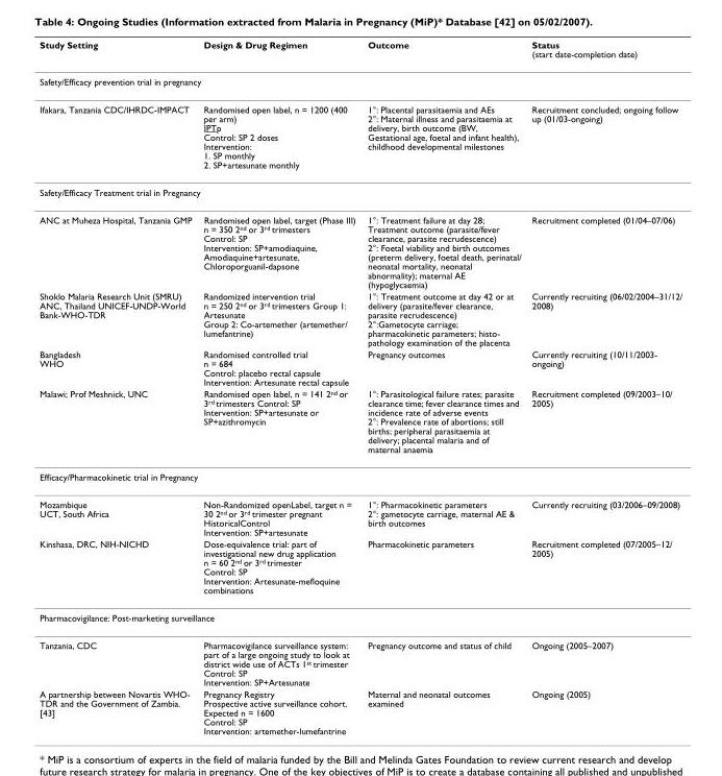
<table><thead><tr><td>Study Setting</td><td>Design &amp; Drug Regimen</td><td>Outcome</td><td>Status (start date-completion date)</td></tr></thead><tbody><tr><td colspan="4">Safety/Efficacy prevention trial in pregnancy</td></tr><tr><td>Ifakara, Tanzania CDC/IHRDC-IMPACT</td><td>Randomised open label, n = 1200 (400 per arm) IPTp Control: SP 2 doses Intervention: 1. SP monthly 2. SP+artesunate monthly</td><td>1°: Placental parasitaemia and AEs 2°: Maternal illness and parasitaemia at delivery, birth outcome (BW, Gestational age, foetal and infant health), childhood developmental milestones</td><td>Recruitment concluded; ongoing follow up (01/03-ongoing)</td></tr><tr><td colspan="4">Safety/Efficacy Treatment trial in Pregnancy</td></tr><tr><td>ANC at Muheza Hospital, Tanzania GMP</td><td>Randomised open label, target (Phase III) n = 350 2<sup>nd</sup> or 3<sup>rd</sup> trimesters Control: SP Intervention: SP+amodiaquine, Amodiaquine+artesunate, Chloroporguanil-dapsone</td><td>1°: Treatment failure at day 28; Treatment outcome (parasite/fever clearance, parasite recrudescence) 2°: Foetal viability and birth outcomes (preterm delivery, foetal death, perinatal/ neonatal mortality, neonatal abnormality); maternal AE (hypoglycaemia)</td><td>Recruitment completed (01/04–07/06)</td></tr><tr><td>Shoklo Malaria Research Unit (SMRU) ANC, Thailand UNICEF-UNDP-World Bank-WHO-TDR</td><td>Randomized intervention trial n = 250 2<sup>nd</sup> or 3<sup>rd</sup> trimesters Group 1: Artesunate Group 2: Co-artemether (artemether/ lumefantrine)</td><td>1°: Treatment outcome at day 42 or at delivery (parasite/fever clearance, parasite recrudescence) 2°:Gametocyte carriage; pharmacokinetic parameters; histo- pathology examination of the placenta</td><td>Currently recruiting (06/02/2004–31/12/ 2008)</td></tr><tr><td>Bangladesh WHO</td><td>Randomised controlled trial n = 684 Control: placebo rectal capsule Intervention: Artesunate rectal capsule</td><td>Pregnancy outcomes</td><td>Currently recruiting (10/11/2003- ongoing)</td></tr><tr><td>Malawi; Prof Meshnick, UNC</td><td>Randomised open label, n = 141 2<sup>nd</sup> or 3<sup>rd</sup> trimesters Control: SP Intervention: SP+artesunate or SP+azithromycin</td><td>1°: Parasitological failure rates; parasite clearance time; fever clearance times and incidence rate of adverse events 2°: Prevalence rate of abortions; still births; peripheral parasitaemia at delivery; placental malaria and of maternal anaemia</td><td>Recruitment completed (09/2003–10/ 2005)</td></tr><tr><td colspan="4">Efficacy/Pharmacokinetic trial in Pregnancy</td></tr><tr><td>Mozambique UCT, South Africa</td><td>Non-Randomized openLabel, target n = 30 2<sup>nd</sup> or 3<sup>rd</sup> trimester pregnant HistoricalControl Intervention: SP+artesunate</td><td>1°: Pharmacokinetic parameters 2°: gametocyte carriage, maternal AE &amp; birth outcomes</td><td>Currently recruiting (03/2006–09/2008)</td></tr><tr><td>Kinshasa, DRC, NIH-NICHD</td><td>Dose-equivalence trial: part of investigational new drug application n = 60 2<sup>nd</sup> or 3<sup>rd</sup> trimester Control: SP Intervention: Artesunate-mefloquine combinations</td><td>Pharmacokinetic parameters</td><td>Recruitment completed (07/2005–12/ 2005)</td></tr><tr><td colspan="4">Pharmacovigilance: Post-marketing surveillance</td></tr><tr><td>Tanzania, CDC</td><td>Pharmacovigilance surveillance system: part of a large ongoing study to look at district wide use of ACTs 1<sup>st</sup> trimester Control: SP Intervention: SP+Artesunate</td><td>Pregnancy outcome and status of child</td><td>Ongoing (2005–2007)</td></tr><tr><td>A partnership between Novartis WHO- TDR and the Government of Zambia. [43]</td><td>Pregnancy Registry Prospective active surveillance cohort. Expected n = 1600 Control: SP Intervention: artemether-lumefantrine</td><td>Maternal and neonatal outcomes examined</td><td>Ongoing (2005)</td></tr></tbody></table>